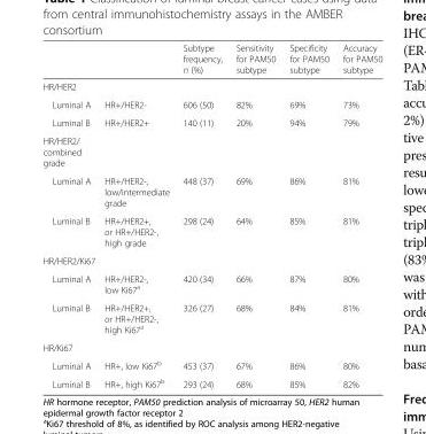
<table><thead><tr><td></td><td></td><td>Subtype frequency, n (%)</td><td>Sensitivity for PAM50 subtype</td><td>Specificity for PAM50 subtype</td><td>Accuracy for PAM50 subtype</td></tr></thead><tbody><tr><td colspan="6">HR/HER2</td></tr><tr><td>Luminal A</td><td>HR+/HER2-</td><td>606 (50)</td><td>82%</td><td>69%</td><td>73%</td></tr><tr><td>Luminal B</td><td>HR+/HER2+</td><td>140 (11)</td><td>20%</td><td>94%</td><td>79%</td></tr><tr><td colspan="6">HR/HER2/ combined grade</td></tr><tr><td>Luminal A</td><td>HR+/HER2-, low/intermediate grade</td><td>448 (37)</td><td>69%</td><td>86%</td><td>81%</td></tr><tr><td>Luminal B</td><td>HR+/HER2+, or HR+/HER2-, high grade</td><td>298 (24)</td><td>64%</td><td>85%</td><td>81%</td></tr><tr><td colspan="6">HR/HER2/Ki67</td></tr><tr><td>Luminal A</td><td>HR+/HER2-, low Ki67<sup>a</sup></td><td>420 (34)</td><td>66%</td><td>87%</td><td>80%</td></tr><tr><td>Luminal B</td><td>HR+/HER2+, or HR+/HER2-, high Ki67<sup>a</sup></td><td>326 (27)</td><td>68%</td><td>84%</td><td>81%</td></tr><tr><td colspan="6">HR/Ki67</td></tr><tr><td>Luminal A</td><td>HR+, low Ki67<sup>b</sup></td><td>453 (37)</td><td>67%</td><td>86%</td><td>80%</td></tr><tr><td>Luminal B</td><td>HR+, high Ki67<sup>b</sup></td><td>293 (24)</td><td>68%</td><td>85%</td><td>82%</td></tr></tbody></table>